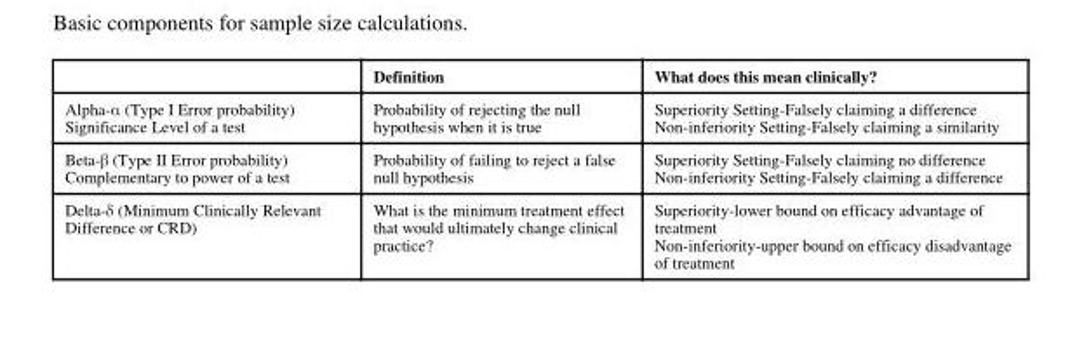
<table><thead><tr><td></td><td>Definition</td><td>What does this mean clinically?</td></tr></thead><tbody><tr><td>Alpha-α (Type I Error probability) Significance Level of a test</td><td>Probability of rejecting the null hypothesis when it is true</td><td>Superiority Setting-Falsely claiming a difference Non-inferiority Setting-Falsely claiming a similarity</td></tr><tr><td>Beta-β (Type II Error probability) Complementary to power of a test</td><td>Probability of failing to reject a false null hypothesis</td><td>Superiority Setting-Falsely claiming no difference Non-inferiority Setting-Falsely claiming a difference</td></tr><tr><td>Delta-δ (Minimum Clinically Relevant Difference or CRD)</td><td>What is the minimum treatment effect that would ultimately change clinical practice?</td><td>Superiority-lower bound on efficacy advantage of treatment Non-inferiority-upper bound on efficacy disadvantage of treatment</td></tr></tbody></table>